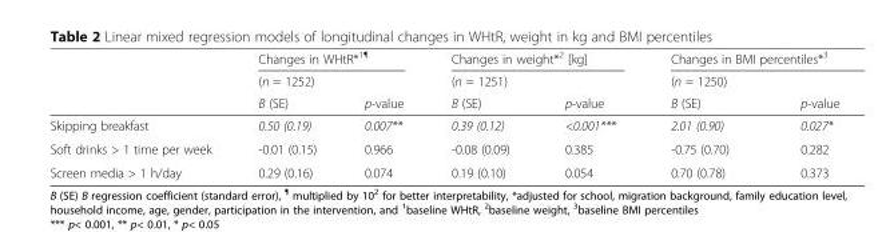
<table><thead><tr><td rowspan="3"></td><td colspan="2">Changes in WHtR*<sup>1¶</sup></td><td colspan="2">Changes in weight*<sup>2</sup> [kg]</td><td colspan="2">Changes in BMI percentiles*<sup>3</sup></td></tr><tr><td rowspan="2">(n = 1252) B (SE)</td><td rowspan="2">p-value</td><td rowspan="2">(n = 1251) B (SE)</td><td rowspan="2">p-value</td><td rowspan="2">(n = 1250) B (SE)</td><td rowspan="2">p-value</td></tr><tr></tr></thead><tbody><tr><td>Skipping breakfast</td><td>0.50 (0.19)</td><td>0.007**</td><td>0.39 (0.12)</td><td>&lt;0.001***</td><td>2.01 (0.90)</td><td>0.027*</td></tr><tr><td>Soft drinks &gt; 1 time per week</td><td>-0.01 (0.15)</td><td>0.966</td><td>-0.08 (0.09)</td><td>0.385</td><td>-0.75 (0.70)</td><td>0.282</td></tr><tr><td>Screen media &gt; 1 h/day</td><td>0.29 (0.16)</td><td>0.074</td><td>0.19 (0.10)</td><td>0.054</td><td>0.70 (0.78)</td><td>0.373</td></tr></tbody></table>